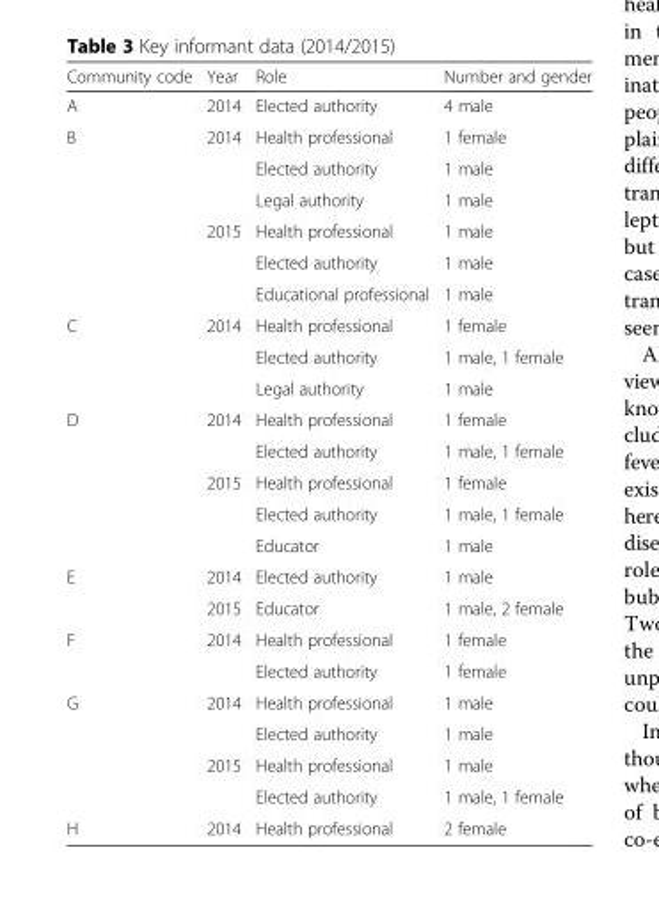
<table><thead><tr><td>Community code</td><td>Year</td><td>Role</td><td>Number and gender</td></tr></thead><tbody><tr><td>A</td><td>2014</td><td>Elected authority</td><td>4 male</td></tr><tr><td rowspan="6">B</td><td rowspan="3">2014</td><td>Health professional</td><td>1 female</td></tr><tr><td>Elected authority</td><td>1 male</td></tr><tr><td>Legal authority</td><td>1 male</td></tr><tr><td rowspan="3">2015</td><td>Health professional</td><td>1 male</td></tr><tr><td>Elected authority</td><td>1 male</td></tr><tr><td>Educational professional</td><td>1 male</td></tr><tr><td rowspan="3">C</td><td rowspan="3">2014</td><td>Health professional</td><td>1 female</td></tr><tr><td>Elected authority</td><td>1 male, 1 female</td></tr><tr><td>Legal authority</td><td>1 male</td></tr><tr><td rowspan="5">D</td><td rowspan="2">2014</td><td>Health professional</td><td>1 female</td></tr><tr><td>Elected authority</td><td>1 male, 1 female</td></tr><tr><td rowspan="3">2015</td><td>Health professional</td><td>1 female</td></tr><tr><td>Elected authority</td><td>1 male, 1 female</td></tr><tr><td>Educator</td><td>1 male</td></tr><tr><td rowspan="2">E</td><td>2014</td><td>Elected authority</td><td>1 male</td></tr><tr><td>2015</td><td>Educator</td><td>1 male, 2 female</td></tr><tr><td rowspan="2">F</td><td rowspan="2">2014</td><td>Health professional</td><td>1 female</td></tr><tr><td>Elected authority</td><td>1 female</td></tr><tr><td rowspan="4">G</td><td rowspan="2">2014</td><td>Health professional</td><td>1 male</td></tr><tr><td>Elected authority</td><td>1 male</td></tr><tr><td rowspan="2">2015</td><td>Health professional</td><td>1 male</td></tr><tr><td>Elected authority</td><td>1 male, 1 female</td></tr><tr><td>H</td><td>2014</td><td>Health professional</td><td>2 female</td></tr></tbody></table>